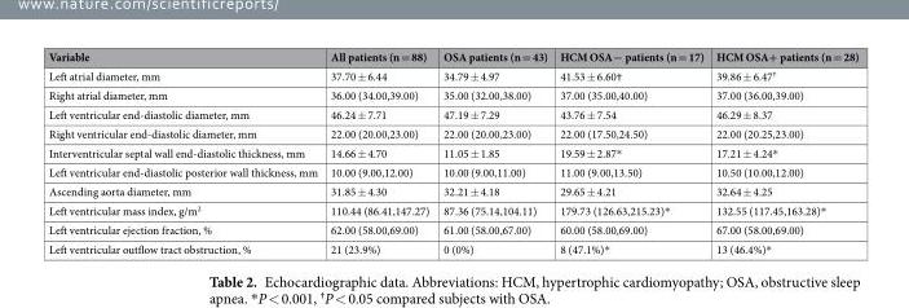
<table><thead><tr><td>Variable</td><td>All patients (n = 88)</td><td>OSA patients (n = 43)</td><td>HCM OSA− patients (n = 17)</td><td>HCM OSA+ patients (n = 28)</td></tr></thead><tbody><tr><td>Left atrial diameter, mm</td><td>37.70 ± 6.44</td><td>34.79 ± 4.97</td><td>41.53 ± 6.60†</td><td>39.86 ± 6.47<sup>†</sup></td></tr><tr><td>Right atrial diameter, mm</td><td>36.00 (34.00,39.00)</td><td>35.00 (32.00,38.00)</td><td>37.00 (35.00,40.00)</td><td>37.00 (36.00,39.00)</td></tr><tr><td>Left ventricular end-diastolic diameter, mm</td><td>46.24 ± 7.71</td><td>47.19 ± 7.29</td><td>43.76 ± 7.54</td><td>46.29 ± 8.37</td></tr><tr><td>Right ventricular end-diastolic diameter, mm</td><td>22.00 (20.00,23.00)</td><td>22.00 (20.00,23.00)</td><td>22.00 (17.50,24.50)</td><td>22.00 (20.25,23.00)</td></tr><tr><td>Interventricular septal wall end-diastolic thickness, mm</td><td>14.66 ± 4.70</td><td>11.05 ± 1.85</td><td>19.59 ± 2.87*</td><td>17.21 ± 4.24*</td></tr><tr><td>Left ventricular end-diastolic posterior wall thickness, mm</td><td>10.00 (9.00,12.00)</td><td>10.00 (9.00,11.00)</td><td>11.00 (9.00,13.50)</td><td>10.50 (10.00,12.00)</td></tr><tr><td>Ascending aorta diameter, mm</td><td>31.85 ± 4.30</td><td>32.21 ± 4.18</td><td>29.65 ± 4.21</td><td>32.64 ± 4.25</td></tr><tr><td>Left ventricular mass index, g/m<sup>2</sup></td><td>110.44 (86.41,147.27)</td><td>87.36 (75.14,104.11)</td><td>179.73 (126.63,215.23)*</td><td>132.55 (117.45,163.28)*</td></tr><tr><td>Left ventricular ejection fraction, %</td><td>62.00 (58.00,69.00)</td><td>61.00 (58.00,67.00)</td><td>60.00 (58.00,69.00)</td><td>67.00 (58.00,69.00)</td></tr><tr><td>Left ventricular outflow tract obstruction, %</td><td>21 (23.9%)</td><td>0 (0%)</td><td>8 (47.1%)*</td><td>13 (46.4%)*</td></tr></tbody></table>